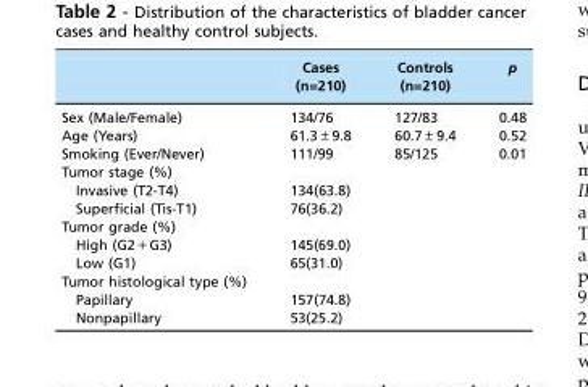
<table><thead><tr><td></td><td>Cases (n=210)</td><td>Controls (n=210)</td><td>p</td></tr></thead><tbody><tr><td>Sex (Male/Female)</td><td>134/76</td><td>127/83</td><td>0.48</td></tr><tr><td>Age (Years)</td><td>61.3±9.8</td><td>60.7±9.4</td><td>0.52</td></tr><tr><td>Smoking (Ever/Never)</td><td>111/99</td><td>85/125</td><td>0.01</td></tr><tr><td colspan="4">Tumor stage (%)</td></tr><tr><td>Invasive (T2-T4)</td><td>134(63.8)</td><td></td><td></td></tr><tr><td>Superficial (Tis-T1)</td><td>76(36.2)</td><td></td><td></td></tr><tr><td colspan="4">Tumor grade (%)</td></tr><tr><td>High (G2+G3)</td><td>145(69.0)</td><td></td><td></td></tr><tr><td>Low (G1)</td><td>65(31.0)</td><td></td><td></td></tr><tr><td colspan="4">Tumor histological type (%)</td></tr><tr><td>Papillary</td><td>157(74.8)</td><td></td><td></td></tr><tr><td>Nonpapillary</td><td>53(25.2)</td><td></td><td></td></tr></tbody></table>